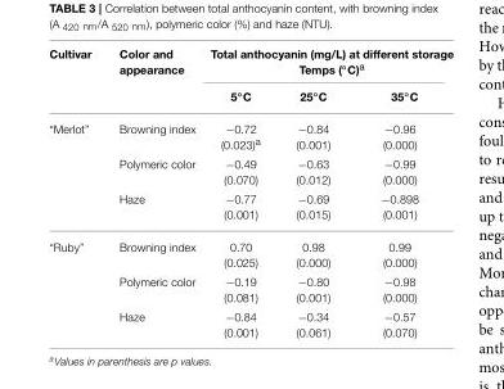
<table><thead><tr><td rowspan="2">Cultivar</td><td rowspan="2">Color and appearance</td><td colspan="3">Total anthocyanin (mg/L) at different storage Temps (◦C)a</td></tr><tr><td>5◦C</td><td>25◦C</td><td>35◦C</td></tr></thead><tbody><tr><td rowspan="3">“Merlot”</td><td>Browning index</td><td>−0.72 (0.023)<sup>a</sup></td><td>−0.84 (0.001)</td><td>−0.96 (0.000)</td></tr><tr><td>Polymeric color</td><td>−0.49 (0.070)</td><td>−0.63 (0.012)</td><td>−0.99 (0.000)</td></tr><tr><td>Haze</td><td>−0.77 (0.001)</td><td>−0.69 (0.015)</td><td>−0.898 (0.001)</td></tr><tr><td rowspan="3">“Ruby”</td><td>Browning index</td><td>0.70 (0.025)</td><td>0.98 (0.000)</td><td>0.99 (0.000)</td></tr><tr><td>Polymeric color</td><td>−0.19 (0.081)</td><td>−0.80 (0.001)</td><td>−0.98 (0.000)</td></tr><tr><td>Haze</td><td>−0.84 (0.001)</td><td>−0.34 (0.061)</td><td>−0.57 (0.070)</td></tr></tbody></table>